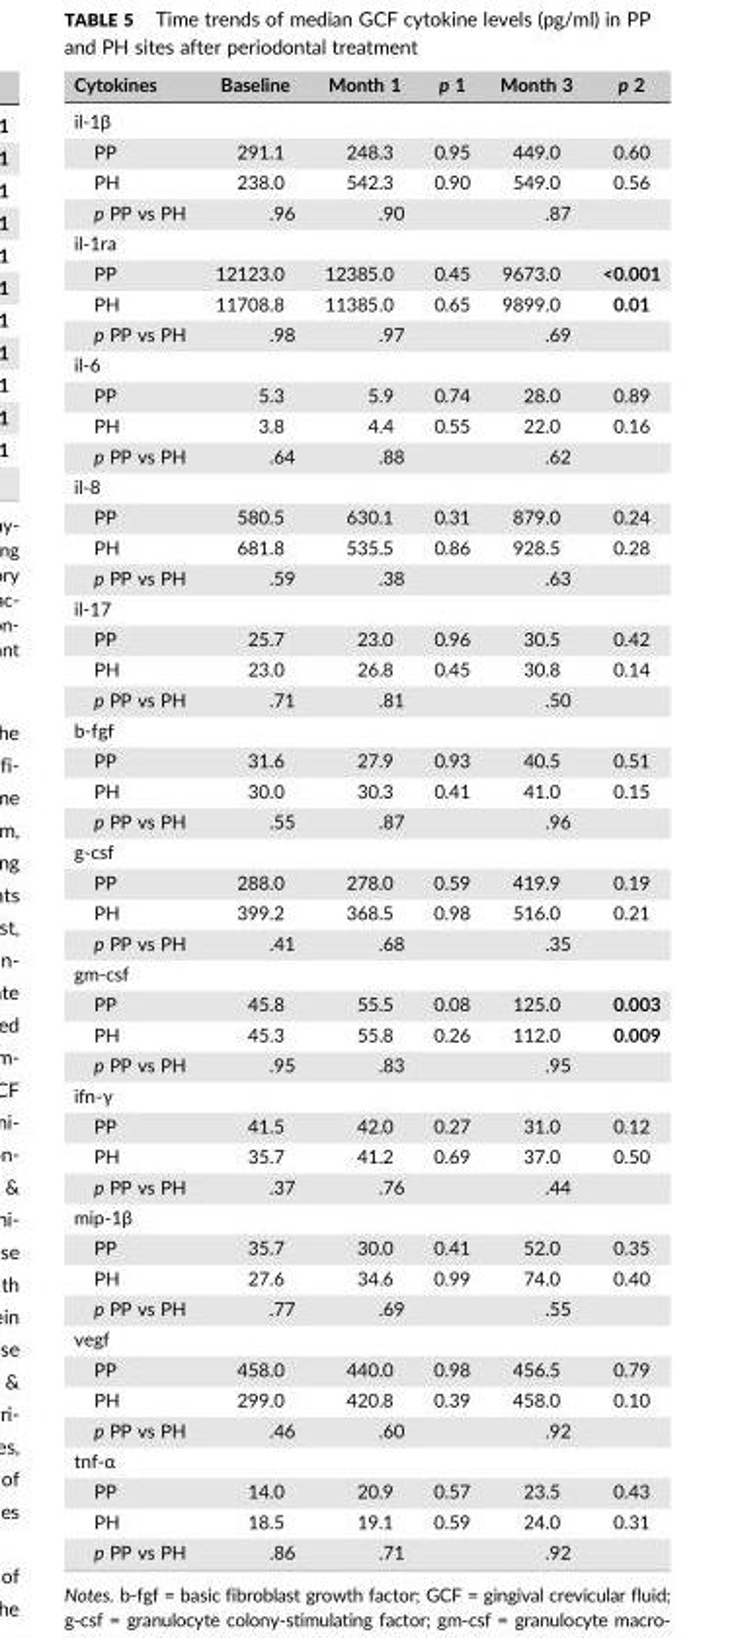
<table><thead><tr><td>Cytokines</td><td>Baseline</td><td>Month 1</td><td>p 1</td><td>Month 3</td><td>p 2</td></tr></thead><tbody><tr><td colspan="6">il‐1β</td></tr><tr><td>PP</td><td>291.1</td><td>248.3</td><td>0.95</td><td>449.0</td><td>0.60</td></tr><tr><td>PH</td><td>238.0</td><td>542.3</td><td>0.90</td><td>549.0</td><td>0.56</td></tr><tr><td>p PP vs PH</td><td>.96</td><td>.90</td><td></td><td>.87</td><td></td></tr><tr><td colspan="6">il‐1ra</td></tr><tr><td>PP</td><td>12123.0</td><td>12385.0</td><td>0.45</td><td>9673.0</td><td>&lt;0.001</td></tr><tr><td>PH</td><td>11708.8</td><td>11385.0</td><td>0.65</td><td>9899.0</td><td>0.01</td></tr><tr><td>p PP vs PH</td><td>.98</td><td>.97</td><td></td><td>.69</td><td></td></tr><tr><td colspan="6">il‐6</td></tr><tr><td>PP</td><td>5.3</td><td>5.9</td><td>0.74</td><td>28.0</td><td>0.89</td></tr><tr><td>PH</td><td>3.8</td><td>4.4</td><td>0.55</td><td>22.0</td><td>0.16</td></tr><tr><td>p PP vs PH</td><td>.64</td><td>.88</td><td></td><td>.62</td><td></td></tr><tr><td colspan="6">il‐8</td></tr><tr><td>PP</td><td>580.5</td><td>630.1</td><td>0.31</td><td>879.0</td><td>0.24</td></tr><tr><td>PH</td><td>681.8</td><td>535.5</td><td>0.86</td><td>928.5</td><td>0.28</td></tr><tr><td>p PP vs PH</td><td>.59</td><td>.38</td><td></td><td>.63</td><td></td></tr><tr><td colspan="6">il‐17</td></tr><tr><td>PP</td><td>25.7</td><td>23.0</td><td>0.96</td><td>30.5</td><td>0.42</td></tr><tr><td>PH</td><td>23.0</td><td>26.8</td><td>0.45</td><td>30.8</td><td>0.14</td></tr><tr><td>p PP vs PH</td><td>.71</td><td>.81</td><td></td><td>.50</td><td></td></tr><tr><td colspan="6">b‐fgf</td></tr><tr><td>PP</td><td>31.6</td><td>27.9</td><td>0.93</td><td>40.5</td><td>0.51</td></tr><tr><td>PH</td><td>30.0</td><td>30.3</td><td>0.41</td><td>41.0</td><td>0.15</td></tr><tr><td>p PP vs PH</td><td>.55</td><td>.87</td><td></td><td>.96</td><td></td></tr><tr><td colspan="6">g‐csf</td></tr><tr><td>PP</td><td>288.0</td><td>278.0</td><td>0.59</td><td>419.9</td><td>0.19</td></tr><tr><td>PH</td><td>399.2</td><td>368.5</td><td>0.98</td><td>516.0</td><td>0.21</td></tr><tr><td>p PP vs PH</td><td>.41</td><td>.68</td><td></td><td>.35</td><td></td></tr><tr><td colspan="6">gm‐csf</td></tr><tr><td>PP</td><td>45.8</td><td>55.5</td><td>0.08</td><td>125.0</td><td>0.003</td></tr><tr><td>PH</td><td>45.3</td><td>55.8</td><td>0.26</td><td>112.0</td><td>0.009</td></tr><tr><td>p PP vs PH</td><td>.95</td><td>.83</td><td></td><td>.95</td><td></td></tr><tr><td colspan="6">ifn‐γ</td></tr><tr><td>PP</td><td>41.5</td><td>42.0</td><td>0.27</td><td>31.0</td><td>0.12</td></tr><tr><td>PH</td><td>35.7</td><td>41.2</td><td>0.69</td><td>37.0</td><td>0.50</td></tr><tr><td>p PP vs PH</td><td>.37</td><td>.76</td><td></td><td>.44</td><td></td></tr><tr><td colspan="6">mip‐1β</td></tr><tr><td>PP</td><td>35.7</td><td>30.0</td><td>0.41</td><td>52.0</td><td>0.35</td></tr><tr><td>PH</td><td>27.6</td><td>34.6</td><td>0.99</td><td>74.0</td><td>0.40</td></tr><tr><td>p PP vs PH</td><td>.77</td><td>.69</td><td></td><td>.55</td><td></td></tr><tr><td colspan="6">vegf</td></tr><tr><td>PP</td><td>458.0</td><td>440.0</td><td>0.98</td><td>456.5</td><td>0.79</td></tr><tr><td>PH</td><td>299.0</td><td>420.8</td><td>0.39</td><td>458.0</td><td>0.10</td></tr><tr><td>p PP vs PH</td><td>.46</td><td>.60</td><td></td><td>.92</td><td></td></tr><tr><td colspan="6">tnf‐α</td></tr><tr><td>PP</td><td>14.0</td><td>20.9</td><td>0.57</td><td>23.5</td><td>0.43</td></tr><tr><td>PH</td><td>18.5</td><td>19.1</td><td>0.59</td><td>24.0</td><td>0.31</td></tr><tr><td>p PP vs PH</td><td>.86</td><td>.71</td><td></td><td>.92</td><td></td></tr></tbody></table>